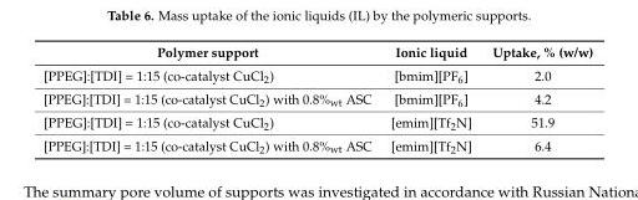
<table><thead><tr><td>Polymer support</td><td>Ionic liquid</td><td>Uptake, % (w/w)</td></tr></thead><tbody><tr><td>[PPEG]:[TDI] = 1:15 (co-catalyst CuCl<sub>2</sub>)</td><td>[bmim][PF<sub>6</sub>]</td><td>2.0</td></tr><tr><td>[PPEG]:[TDI] = 1:15 (co-catalyst CuCl<sub>2</sub>) with 0.8%<sub>wt</sub> ASC</td><td>[bmim][PF<sub>6</sub>]</td><td>4.2</td></tr><tr><td>[PPEG]:[TDI] = 1:15 (co-catalyst CuCl<sub>2</sub>)</td><td>[emim][Tf<sub>2</sub>N]</td><td>51.9</td></tr><tr><td>[PPEG]:[TDI] = 1:15 (co-catalyst CuCl<sub>2</sub>) with 0.8%<sub>wt</sub> ASC</td><td>[emim][Tf<sub>2</sub>N]</td><td>6.4</td></tr></tbody></table>